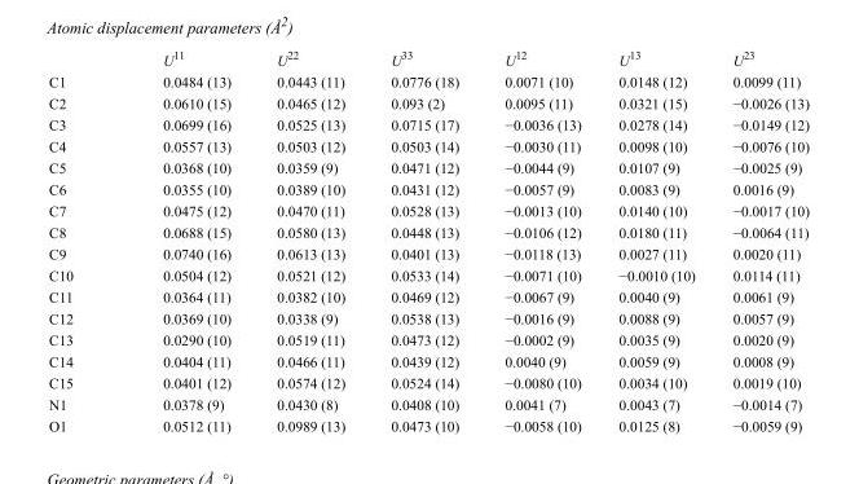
<table><thead><tr><td></td><td>U<sup>11</sup></td><td>U<sup>22</sup></td><td>U<sup>33</sup></td><td>U<sup>12</sup></td><td>U<sup>13</sup></td><td>U<sup>23</sup></td></tr></thead><tbody><tr><td>C1</td><td>0.0484 (13)</td><td>0.0443 (11)</td><td>0.0776 (18)</td><td>0.0071 (10)</td><td>0.0148 (12)</td><td>0.0099 (11)</td></tr><tr><td>C2</td><td>0.0610 (15)</td><td>0.0465 (12)</td><td>0.093 (2)</td><td>0.0095 (11)</td><td>0.0321 (15)</td><td>−0.0026 (13)</td></tr><tr><td>C3</td><td>0.0699 (16)</td><td>0.0525 (13)</td><td>0.0715 (17)</td><td>−0.0036 (13)</td><td>0.0278 (14)</td><td>−0.0149 (12)</td></tr><tr><td>C4</td><td>0.0557 (13)</td><td>0.0503 (12)</td><td>0.0503 (14)</td><td>−0.0030 (11)</td><td>0.0098 (10)</td><td>−0.0076 (10)</td></tr><tr><td>C5</td><td>0.0368 (10)</td><td>0.0359 (9)</td><td>0.0471 (12)</td><td>−0.0044 (9)</td><td>0.0107 (9)</td><td>−0.0025 (9)</td></tr><tr><td>C6</td><td>0.0355 (10)</td><td>0.0389 (10)</td><td>0.0431 (12)</td><td>−0.0057 (9)</td><td>0.0083 (9)</td><td>0.0016 (9)</td></tr><tr><td>C7</td><td>0.0475 (12)</td><td>0.0470 (11)</td><td>0.0528 (13)</td><td>−0.0013 (10)</td><td>0.0140 (10)</td><td>−0.0017 (10)</td></tr><tr><td>C8</td><td>0.0688 (15)</td><td>0.0580 (13)</td><td>0.0448 (13)</td><td>−0.0106 (12)</td><td>0.0180 (11)</td><td>−0.0064 (11)</td></tr><tr><td>C9</td><td>0.0740 (16)</td><td>0.0613 (13)</td><td>0.0401 (13)</td><td>−0.0118 (13)</td><td>0.0027 (11)</td><td>0.0020 (11)</td></tr><tr><td>C10</td><td>0.0504 (12)</td><td>0.0521 (12)</td><td>0.0533 (14)</td><td>−0.0071 (10)</td><td>−0.0010 (10)</td><td>0.0114 (11)</td></tr><tr><td>C11</td><td>0.0364 (11)</td><td>0.0382 (10)</td><td>0.0469 (12)</td><td>−0.0067 (9)</td><td>0.0040 (9)</td><td>0.0061 (9)</td></tr><tr><td>C12</td><td>0.0369 (10)</td><td>0.0338 (9)</td><td>0.0538 (13)</td><td>−0.0016 (9)</td><td>0.0088 (9)</td><td>0.0057 (9)</td></tr><tr><td>C13</td><td>0.0290 (10)</td><td>0.0519 (11)</td><td>0.0473 (12)</td><td>−0.0002 (9)</td><td>0.0035 (9)</td><td>0.0020 (9)</td></tr><tr><td>C14</td><td>0.0404 (11)</td><td>0.0466 (11)</td><td>0.0439 (12)</td><td>0.0040 (9)</td><td>0.0059 (9)</td><td>0.0008 (9)</td></tr><tr><td>C15</td><td>0.0401 (12)</td><td>0.0574 (12)</td><td>0.0524 (14)</td><td>−0.0080 (10)</td><td>0.0034 (10)</td><td>0.0019 (10)</td></tr><tr><td>N1</td><td>0.0378 (9)</td><td>0.0430 (8)</td><td>0.0408 (10)</td><td>0.0041 (7)</td><td>0.0043 (7)</td><td>−0.0014 (7)</td></tr><tr><td>O1</td><td>0.0512 (11)</td><td>0.0989 (13)</td><td>0.0473 (10)</td><td>−0.0058 (10)</td><td>0.0125 (8)</td><td>−0.0059 (9)</td></tr></tbody></table>